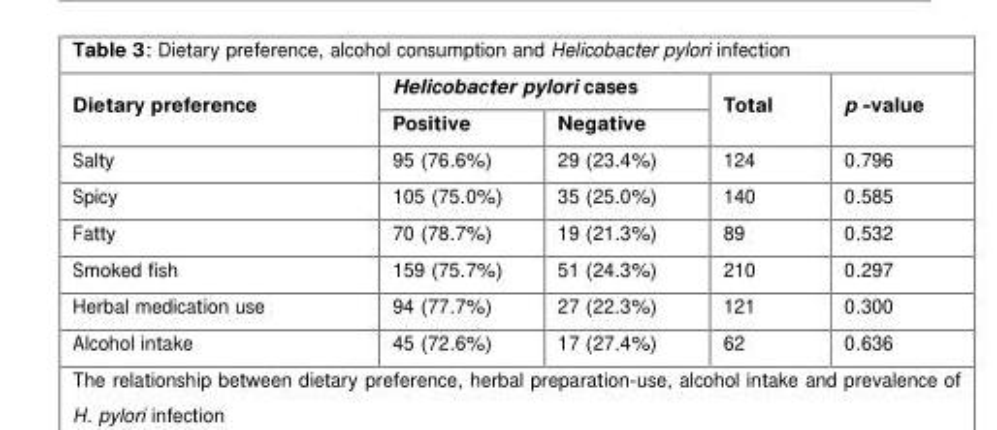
<table><thead><tr><td rowspan="2">Dietary preference</td><td colspan="2">Helicobacter pylori cases</td><td rowspan="2">Total</td><td rowspan="2">p -value</td></tr><tr><td>Positive</td><td>Negative</td></tr></thead><tbody><tr><td>Salty</td><td>95 (76.6%)</td><td>29 (23.4%)</td><td>124</td><td>0.796</td></tr><tr><td>Spicy</td><td>105 (75.0%)</td><td>35 (25.0%)</td><td>140</td><td>0.585</td></tr><tr><td>Fatty</td><td>70 (78.7%)</td><td>19 (21.3%)</td><td>89</td><td>0.532</td></tr><tr><td>Smoked fish</td><td>159 (75.7%)</td><td>51 (24.3%)</td><td>210</td><td>0.297</td></tr><tr><td>Herbal medication use</td><td>94 (77.7%)</td><td>27 (22.3%)</td><td>121</td><td>0.300</td></tr><tr><td>Alcohol intake</td><td>45 (72.6%)</td><td>17 (27.4%)</td><td>62</td><td>0.636</td></tr></tbody></table>